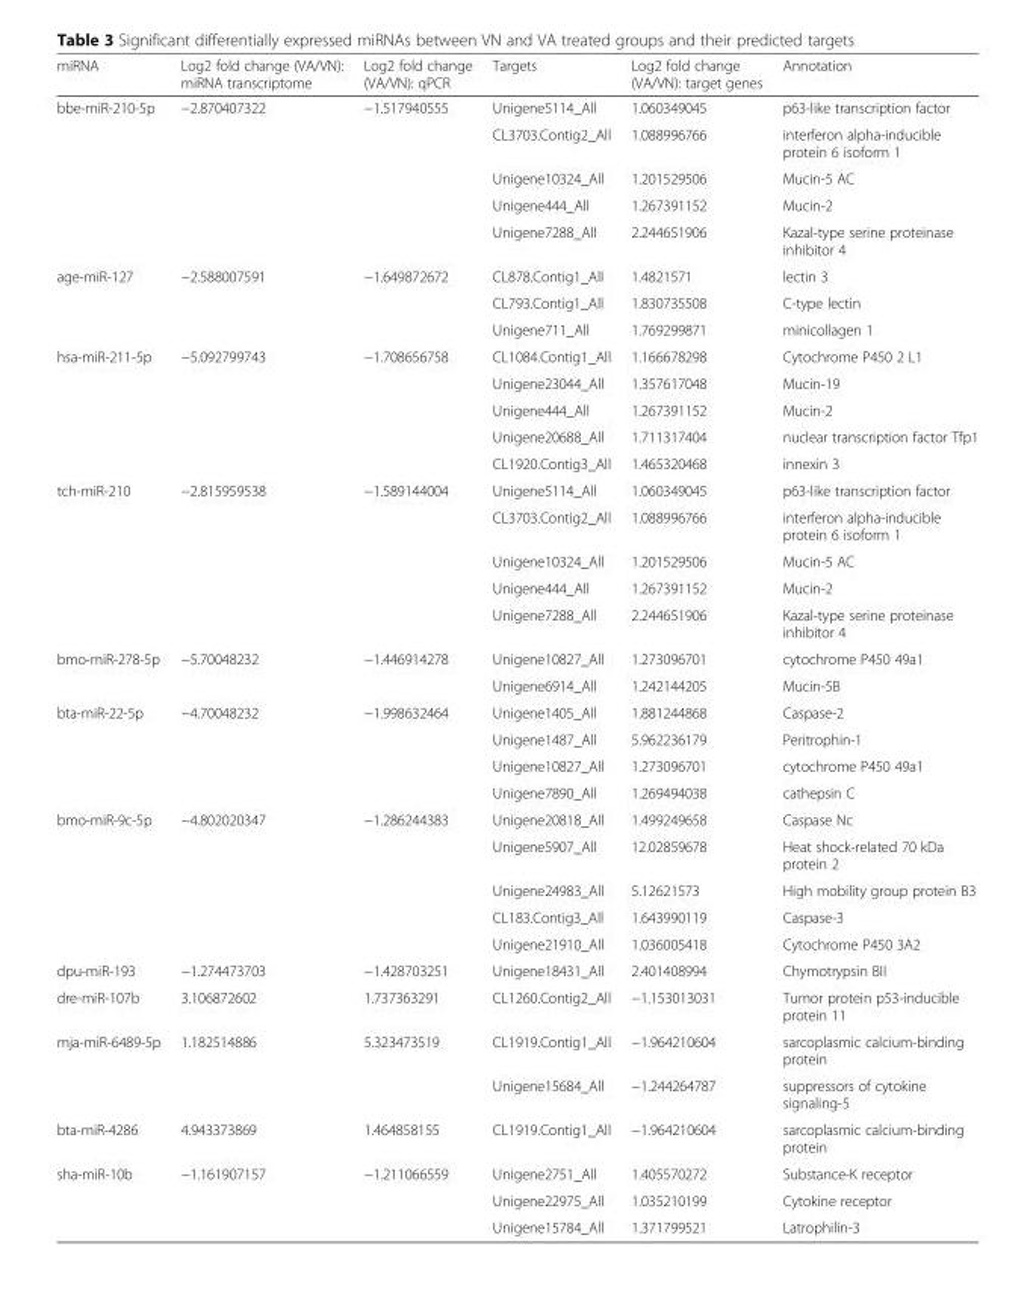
<table><thead><tr><td>miRNA</td><td>Log2 fold change (VA/VN): miRNA transcriptome</td><td>Log2 fold change (VA/VN): qPCR</td><td>Targets</td><td>Log2 fold change (VA/VN): target genes</td><td>Annotation</td></tr></thead><tbody><tr><td rowspan="5">bbe-miR-210-5p</td><td>−2.870407322</td><td>−1.517940555</td><td>Unigene5114_All</td><td>1.060349045</td><td>p63-like transcription factor</td></tr><tr><td></td><td></td><td>CL3703.Contig2_All</td><td>1.088996766</td><td>interferon alpha-inducible protein 6 isoform 1</td></tr><tr><td></td><td></td><td>Unigene10324_All</td><td>1.201529506</td><td>Mucin-5 AC</td></tr><tr><td></td><td></td><td>Unigene444_All</td><td>1.267391152</td><td>Mucin-2</td></tr><tr><td></td><td></td><td>Unigene7288_All</td><td>2.244651906</td><td>Kazal-type serine proteinase inhibitor 4</td></tr><tr><td rowspan="3">age-miR-127</td><td>−2.588007591</td><td>−1.649872672</td><td>CL878.Contig1_All</td><td>1.4821571</td><td>lectin 3</td></tr><tr><td></td><td></td><td>CL793.Contig1_All</td><td>1.830735508</td><td>C-type lectin</td></tr><tr><td></td><td></td><td>Unigene711_All</td><td>1.769299871</td><td>minicollagen 1</td></tr><tr><td rowspan="5">hsa-miR-211-5p</td><td>−5.092799743</td><td>−1.708656758</td><td>CL1084.Contig1_All</td><td>1.166678298</td><td>Cytochrome P450 2 L1</td></tr><tr><td></td><td></td><td>Unigene23044_All</td><td>1.357617048</td><td>Mucin-19</td></tr><tr><td></td><td></td><td>Unigene444_All</td><td>1.267391152</td><td>Mucin-2</td></tr><tr><td></td><td></td><td>Unigene20688_All</td><td>1.711317404</td><td>nuclear transcription factor Tfp1</td></tr><tr><td></td><td></td><td>CL1920.Contig3_All</td><td>1.465320468</td><td>innexin 3</td></tr><tr><td rowspan="5">tch-miR-210</td><td>−2.815959538</td><td>−1.589144004</td><td>Unigene5114_All</td><td>1.060349045</td><td>p63-like transcription factor</td></tr><tr><td></td><td></td><td>CL3703.Contig2_All</td><td>1.088996766</td><td>interferon alpha-inducible protein 6 isoform 1</td></tr><tr><td></td><td></td><td>Unigene10324_All</td><td>1.201529506</td><td>Mucin-5 AC</td></tr><tr><td></td><td></td><td>Unigene444_All</td><td>1.267391152</td><td>Mucin-2</td></tr><tr><td></td><td></td><td>Unigene7288_All</td><td>2.244651906</td><td>Kazal-type serine proteinase inhibitor 4</td></tr><tr><td rowspan="2">bmo-miR-278-5p</td><td>−5.70048232</td><td>−1.446914278</td><td>Unigene10827_All</td><td>1.273096701</td><td>cytochrome P450 49a1</td></tr><tr><td></td><td></td><td>Unigene6914_All</td><td>1.242144205</td><td>Mucin-5B</td></tr><tr><td rowspan="4">bta-miR-22-5p</td><td>−4.70048232</td><td>−1.998632464</td><td>Unigene1405_All</td><td>1.881244868</td><td>Caspase-2</td></tr><tr><td></td><td></td><td>Unigene1487_All</td><td>5.962236179</td><td>Peritrophin-1</td></tr><tr><td></td><td></td><td>Unigene10827_All</td><td>1.273096701</td><td>cytochrome P450 49a1</td></tr><tr><td></td><td></td><td>Unigene7890_All</td><td>1.269494038</td><td>cathepsin C</td></tr><tr><td rowspan="5">bmo-miR-9c-5p</td><td>−4.802020347</td><td>−1.286244383</td><td>Unigene20818_All</td><td>1.499249658</td><td>Caspase Nc</td></tr><tr><td></td><td></td><td>Unigene5907_All</td><td>12.02859678</td><td>Heat shock-related 70 kDa protein 2</td></tr><tr><td></td><td></td><td>Unigene24983_All</td><td>5.12621573</td><td>High mobility group protein B3</td></tr><tr><td></td><td></td><td>CL183.Contig3_All</td><td>1.643990119</td><td>Caspase-3</td></tr><tr><td></td><td></td><td>Unigene21910_All</td><td>1.036005418</td><td>Cytochrome P450 3A2</td></tr><tr><td>dpu-miR-193</td><td>−1.274473703</td><td>−1.428703251</td><td>Unigene18431_All</td><td>2.401408994</td><td>Chymotrypsin BII</td></tr><tr><td>dre-miR-107b</td><td>3.106872602</td><td>1.737363291</td><td>CL1260.Contig2_All</td><td>−1.153013031</td><td>Tumor protein p53-inducible protein 11</td></tr><tr><td rowspan="2">mja-miR-6489-5p</td><td>1.182514886</td><td>5.323473519</td><td>CL1919.Contig1_All</td><td>−1.964210604</td><td>sarcoplasmic calcium-binding protein</td></tr><tr><td></td><td></td><td>Unigene15684_All</td><td>−1.244264787</td><td>suppressors of cytokine signaling-5</td></tr><tr><td>bta-miR-4286</td><td>4.943373869</td><td>1.464858155</td><td>CL1919.Contig1_All</td><td>−1.964210604</td><td>sarcoplasmic calcium-binding protein</td></tr><tr><td rowspan="3">sha-miR-10b</td><td>−1.161907157</td><td>−1.211066559</td><td>Unigene2751_All</td><td>1.405570272</td><td>Substance-K receptor</td></tr><tr><td></td><td></td><td>Unigene22975_All</td><td>1.035210199</td><td>Cytokine receptor</td></tr><tr><td></td><td></td><td>Unigene15784_All</td><td>1.371799521</td><td>Latrophilin-3</td></tr></tbody></table>